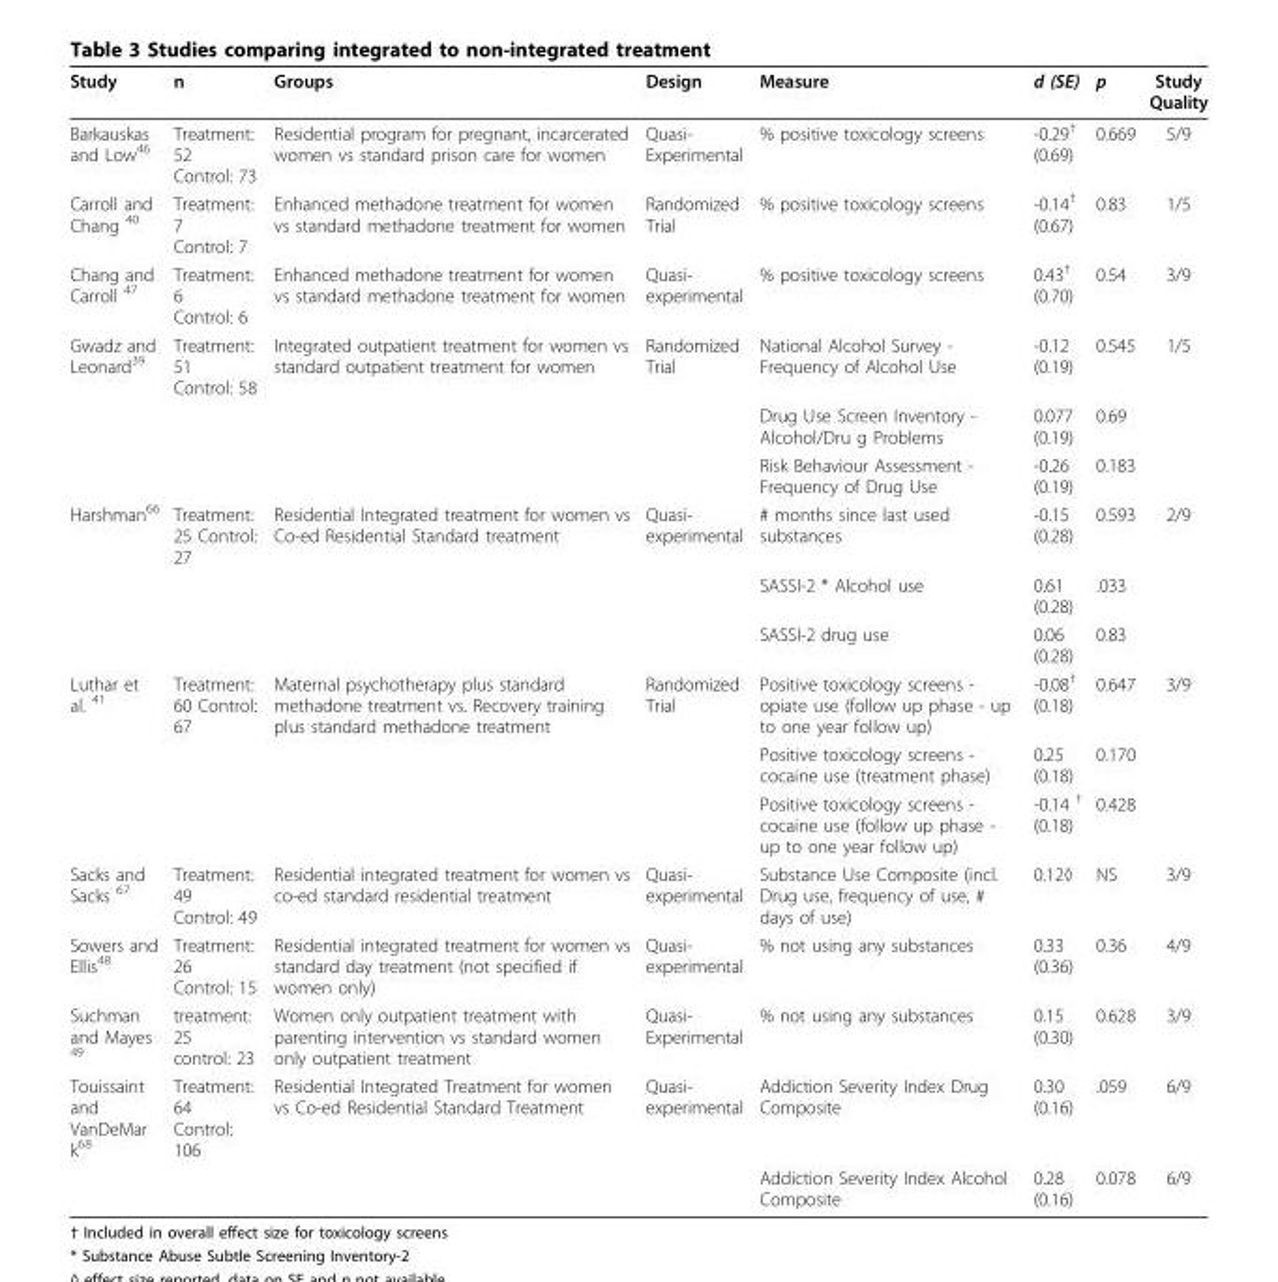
<table><thead><tr><td>Study</td><td>n</td><td>Groups</td><td>Design</td><td>Measure</td><td>d (SE)</td><td>p</td><td>Study Quality</td></tr></thead><tbody><tr><td>Barkauskas and Low<sup>46</sup></td><td>Treatment: 52 Control: 73</td><td>Residential program for pregnant, incarcerated women vs standard prison care for women</td><td>Quasi- Experimental</td><td>% positive toxicology screens</td><td>-0.29<sup>†</sup> (0.69)</td><td>0.669</td><td>5/9</td></tr><tr><td>Carroll and Chang <sup>40</sup></td><td>Treatment: 7 Control: 7</td><td>Enhanced methadone treatment for women vs standard methadone treatment for women</td><td>Randomized Trial</td><td>% positive toxicology screens</td><td>-0.14<sup>†</sup> (0.67)</td><td>0.83</td><td>1/5</td></tr><tr><td>Chang and Carroll <sup>47</sup></td><td>Treatment: 6 Control: 6</td><td>Enhanced methadone treatment for women vs standard methadone treatment for women</td><td>Quasi- experimental</td><td>% positive toxicology screens</td><td>0.43<sup>†</sup> (0.70)</td><td>0.54</td><td>3/9</td></tr><tr><td rowspan="3">Gwadz and Leonard<sup>39</sup></td><td>Treatment: 51 Control: 58</td><td>Integrated outpatient treatment for women vs standard outpatient treatment for women</td><td>Randomized Trial</td><td>National Alcohol Survey - Frequency of Alcohol Use</td><td>-0.12 (0.19)</td><td>0.545</td><td>1/5</td></tr><tr><td></td><td></td><td></td><td>Drug Use Screen Inventory - Alcohol/Dru g Problems</td><td>0.077 (0.19)</td><td>0.69</td><td></td></tr><tr><td></td><td></td><td></td><td>Risk Behaviour Assessment - Frequency of Drug Use</td><td>-0.26 (0.19)</td><td>0.183</td><td></td></tr><tr><td rowspan="3">Harshman<sup>66</sup></td><td>Treatment: 25 Control: 27</td><td>Residential Integrated treatment for women vs Co-ed Residential Standard treatment</td><td>Quasi- experimental</td><td># months since last used substances</td><td>-0.15 (0.28)</td><td>0.593</td><td>2/9</td></tr><tr><td></td><td></td><td></td><td>SASSI-2 * Alcohol use</td><td>0.61 (0.28)</td><td>.033</td><td></td></tr><tr><td></td><td></td><td></td><td>SASSI-2 drug use</td><td>0.06 (0.28)</td><td>0.83</td><td></td></tr><tr><td rowspan="3">Luthar et al. <sup>41</sup></td><td>Treatment: 60 Control: 67</td><td>Maternal psychotherapy plus standard methadone treatment vs. Recovery training plus standard methadone treatment</td><td>Randomized Trial</td><td>Positive toxicology screens - opiate use (follow up phase - up to one year follow up)</td><td>-0.08<sup>†</sup> (0.18)</td><td>0.647</td><td>3/9</td></tr><tr><td></td><td></td><td></td><td>Positive toxicology screens - cocaine use (treatment phase)</td><td>0.25 (0.18)</td><td>0.170</td><td></td></tr><tr><td></td><td></td><td></td><td>Positive toxicology screens - cocaine use (follow up phase - up to one year follow up)</td><td>-0.14 <sup>†</sup> (0.18)</td><td>0.428</td><td></td></tr><tr><td>Sacks and Sacks <sup>67</sup></td><td>Treatment: 49 Control: 49</td><td>Residential integrated treatment for women vs co-ed standard residential treatment</td><td>Quasi- experimental</td><td>Substance Use Composite (incl. Drug use, frequency of use, # days of use)</td><td>0.12◊</td><td>NS</td><td>3/9</td></tr><tr><td>Sowers and Ellis<sup>48</sup></td><td>Treatment: 26 Control: 15</td><td>Residential integrated treatment for women vs standard day treatment (not specified if women only)</td><td>Quasi- experimental</td><td>% not using any substances</td><td>0.33 (0.36)</td><td>0.36</td><td>4/9</td></tr><tr><td>Suchman and Mayes <sup>49</sup></td><td>treatment: 25 control: 23</td><td>Women only outpatient treatment with parenting intervention vs standard women only outpatient treatment</td><td>Quasi- Experimental</td><td>% not using any substances</td><td>0.15 (0.30)</td><td>0.628</td><td>3/9</td></tr><tr><td rowspan="2">Touissaint and VanDeMar k<sup>68</sup></td><td>Treatment: 64 Control: 106</td><td>Residential Integrated Treatment for women vs Co-ed Residential Standard Treatment</td><td>Quasi- experimental</td><td>Addiction Severity Index Drug Composite</td><td>0.30 (0.16)</td><td>.059</td><td>6/9</td></tr><tr><td></td><td></td><td></td><td>Addiction Severity Index Alcohol Composite</td><td>0.28 (0.16)</td><td>0.078</td><td>6/9</td></tr></tbody></table>